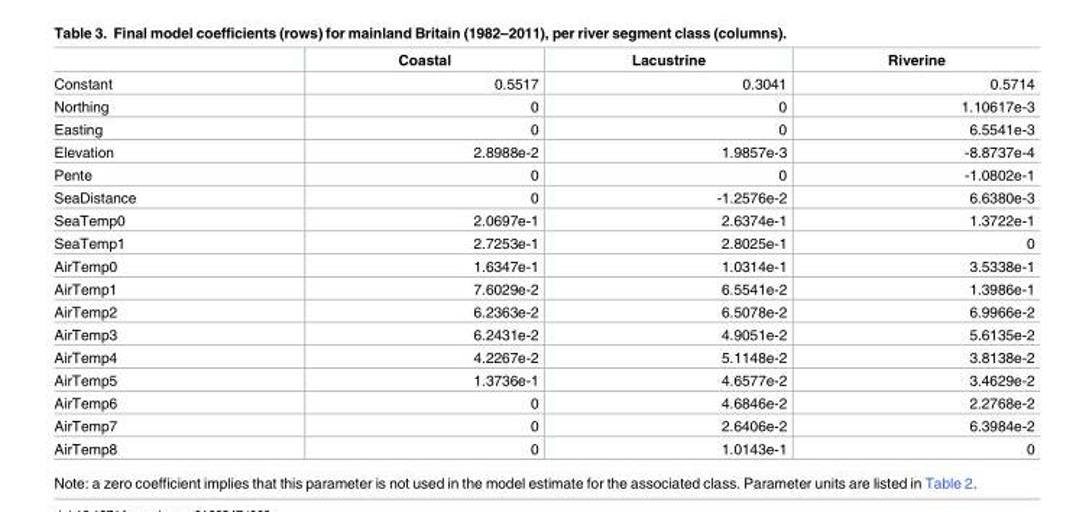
<table><thead><tr><td></td><td>Coastal</td><td>Lacustrine</td><td>Riverine</td></tr></thead><tbody><tr><td>Constant</td><td>0.5517</td><td>0.3041</td><td>0.5714</td></tr><tr><td>Northing</td><td>0</td><td>0</td><td>1.10617e-3</td></tr><tr><td>Easting</td><td>0</td><td>0</td><td>6.5541e-3</td></tr><tr><td>Elevation</td><td>2.8988e-2</td><td>1.9857e-3</td><td>-8.8737e-4</td></tr><tr><td>Pente</td><td>0</td><td>0</td><td>-1.0802e-1</td></tr><tr><td>SeaDistance</td><td>0</td><td>-1.2576e-2</td><td>6.6380e-3</td></tr><tr><td>SeaTemp0</td><td>2.0697e-1</td><td>2.6374e-1</td><td>1.3722e-1</td></tr><tr><td>SeaTemp1</td><td>2.7253e-1</td><td>2.8025e-1</td><td>0</td></tr><tr><td>AirTemp0</td><td>1.6347e-1</td><td>1.0314e-1</td><td>3.5338e-1</td></tr><tr><td>AirTemp1</td><td>7.6029e-2</td><td>6.5541e-2</td><td>1.3986e-1</td></tr><tr><td>AirTemp2</td><td>6.2363e-2</td><td>6.5078e-2</td><td>6.9966e-2</td></tr><tr><td>AirTemp3</td><td>6.2431e-2</td><td>4.9051e-2</td><td>5.6135e-2</td></tr><tr><td>AirTemp4</td><td>4.2267e-2</td><td>5.1148e-2</td><td>3.8138e-2</td></tr><tr><td>AirTemp5</td><td>1.3736e-1</td><td>4.6577e-2</td><td>3.4629e-2</td></tr><tr><td>AirTemp6</td><td>0</td><td>4.6846e-2</td><td>2.2768e-2</td></tr><tr><td>AirTemp7</td><td>0</td><td>2.6406e-2</td><td>6.3984e-2</td></tr><tr><td>AirTemp8</td><td>0</td><td>1.0143e-1</td><td>0</td></tr></tbody></table>